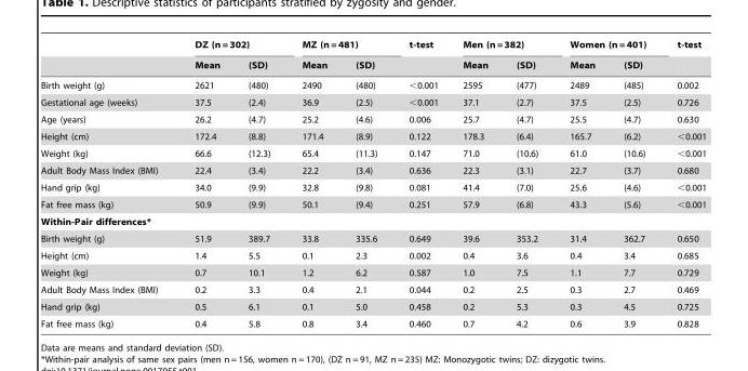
<table><thead><tr><td rowspan="2"></td><td colspan="2">DZ (n = 302)</td><td colspan="2">MZ (n = 481)</td><td rowspan="2">t-test</td><td colspan="2">Men (n = 382)</td><td colspan="2">Women (n = 401)</td><td rowspan="2">t-test</td></tr><tr><td>Mean</td><td>(SD)</td><td>Mean</td><td>(SD)</td><td>Mean</td><td>(SD)</td><td>Mean</td><td>(SD)</td></tr></thead><tbody><tr><td>Birth weight (g)</td><td>2621</td><td>(480)</td><td>2490</td><td>(480)</td><td>&lt;0.001</td><td>2595</td><td>(477)</td><td>2489</td><td>(485)</td><td>0.002</td></tr><tr><td>Gestational age (weeks)</td><td>37.5</td><td>(2.4)</td><td>36.9</td><td>(2.5)</td><td>&lt;0.001</td><td>37.1</td><td>(2.7)</td><td>37.5</td><td>(2.5)</td><td>0.726</td></tr><tr><td>Age (years)</td><td>26.2</td><td>(4.7)</td><td>25.2</td><td>(4.6)</td><td>0.006</td><td>25.7</td><td>(4.7)</td><td>25.5</td><td>(4.7)</td><td>0.630</td></tr><tr><td>Height (cm)</td><td>172.4</td><td>(8.8)</td><td>171.4</td><td>(8.9)</td><td>0.122</td><td>178.3</td><td>(6.4)</td><td>165.7</td><td>(6.2)</td><td>&lt;0.001</td></tr><tr><td>Weight (kg)</td><td>66.6</td><td>(12.3)</td><td>65.4</td><td>(11.3)</td><td>0.147</td><td>71.0</td><td>(10.6)</td><td>61.0</td><td>(10.6)</td><td>&lt;0.001</td></tr><tr><td>Adult Body Mass Index (BMI)</td><td>22.4</td><td>(3.4)</td><td>22.2</td><td>(3.4)</td><td>0.636</td><td>22.3</td><td>(3.1)</td><td>22.7</td><td>(3.7)</td><td>0.680</td></tr><tr><td>Hand grip (kg)</td><td>34.0</td><td>(9.9)</td><td>32.8</td><td>(9.8)</td><td>0.081</td><td>41.4</td><td>(7.0)</td><td>25.6</td><td>(4.6)</td><td>&lt;0.001</td></tr><tr><td>Fat free mass (kg)</td><td>50.9</td><td>(9.9)</td><td>50.1</td><td>(9.4)</td><td>0.251</td><td>57.9</td><td>(6.8)</td><td>43.3</td><td>(5.6)</td><td>&lt;0.001</td></tr><tr><td colspan="11">Within-Pair differences*</td></tr><tr><td>Birth weight (g)</td><td>51.9</td><td>389.7</td><td>33.8</td><td>335.6</td><td>0.649</td><td>39.6</td><td>353.2</td><td>31.4</td><td>362.7</td><td>0.650</td></tr><tr><td>Height (cm)</td><td>1.4</td><td>5.5</td><td>0.1</td><td>2.3</td><td>0.002</td><td>0.4</td><td>3.6</td><td>0.4</td><td>3.4</td><td>0.685</td></tr><tr><td>Weight (kg)</td><td>0.7</td><td>10.1</td><td>1.2</td><td>6.2</td><td>0.587</td><td>1.0</td><td>7.5</td><td>1.1</td><td>7.7</td><td>0.729</td></tr><tr><td>Adult Body Mass Index (BMI)</td><td>0.2</td><td>3.3</td><td>0.4</td><td>2.1</td><td>0.044</td><td>0.2</td><td>2.5</td><td>0.3</td><td>2.7</td><td>0.469</td></tr><tr><td>Hand grip (kg)</td><td>0.5</td><td>6.1</td><td>0.1</td><td>5.0</td><td>0.458</td><td>0.2</td><td>5.3</td><td>0.3</td><td>4.5</td><td>0.725</td></tr><tr><td>Fat free mass (kg)</td><td>0.4</td><td>5.8</td><td>0.8</td><td>3.4</td><td>0.460</td><td>0.7</td><td>4.2</td><td>0.6</td><td>3.9</td><td>0.828</td></tr></tbody></table>